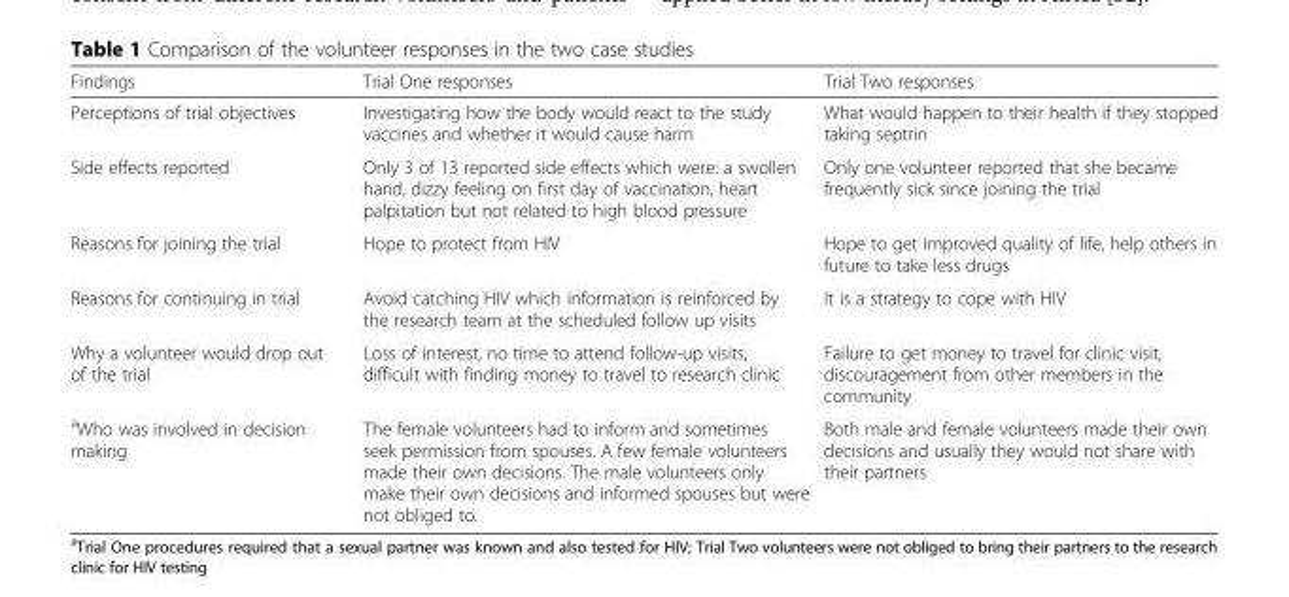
<table><thead><tr><td>Findings</td><td>Trial One responses</td><td>Trial Two responses</td></tr></thead><tbody><tr><td>Perceptions of trial objectives</td><td>Investigating how the body would react to the study vaccines and whether it would cause harm</td><td>What would happen to their health if they stopped taking septrin</td></tr><tr><td>Side effects reported</td><td>Only 3 of 13 reported side effects which were: a swollen hand, dizzy feeling on first day of vaccination, heart palpitation but not related to high blood pressure</td><td>Only one volunteer reported that she became frequently sick since joining the trial</td></tr><tr><td>Reasons for joining the trial</td><td>Hope to protect from HIV</td><td>Hope to get improved quality of life, help others in future to take less drugs</td></tr><tr><td>Reasons for continuing in trial</td><td>Avoid catching HIV which information is reinforced by the research team at the scheduled follow up visits</td><td>It is a strategy to cope with HIV</td></tr><tr><td>Why a volunteer would drop out of the trial</td><td>Loss of interest, no time to attend follow-up visits, difficult with finding money to travel to research clinic</td><td>Failure to get money to travel for clinic visit, discouragement from other members in the community</td></tr><tr><td><sup>a</sup>Who was involved in decision making</td><td>The female volunteers had to inform and sometimes seek permission from spouses. A few female volunteers made their own decisions. The male volunteers only make their own decisions and informed spouses but were not obliged to.</td><td>Both male and female volunteers made their own decisions and usually they would not share with their partners</td></tr></tbody></table>